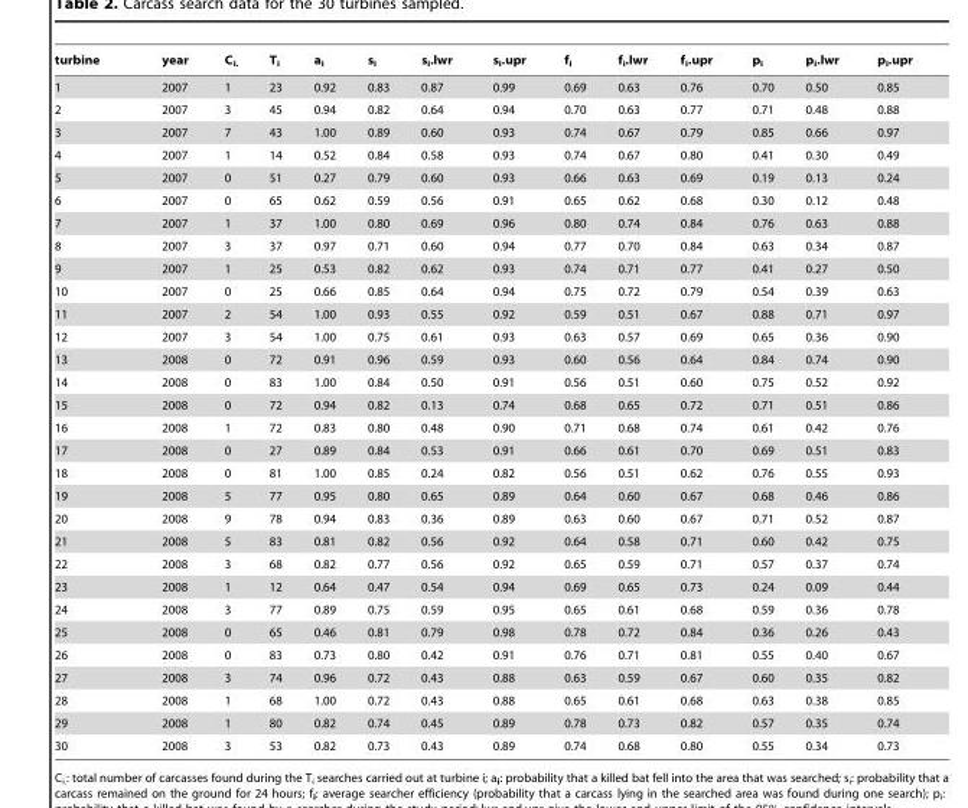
<table><thead><tr><td>turbine</td><td>year</td><td>C<sub>i.</sub></td><td>T<sub>i</sub></td><td>a<sub>i</sub></td><td>s<sub>i</sub></td><td>s<sub>i</sub>.lwr</td><td>s<sub>i</sub>.upr</td><td>f<sub>i</sub></td><td>f<sub>i</sub>.lwr</td><td>f<sub>i</sub>.upr</td><td>p<sub>i</sub></td><td>p<sub>i</sub>.lwr</td><td>p<sub>i</sub>.upr</td></tr></thead><tbody><tr><td>1</td><td>2007</td><td>1</td><td>23</td><td>0.92</td><td>0.83</td><td>0.87</td><td>0.99</td><td>0.69</td><td>0.63</td><td>0.76</td><td>0.70</td><td>0.50</td><td>0.85</td></tr><tr><td>2</td><td>2007</td><td>3</td><td>45</td><td>0.94</td><td>0.82</td><td>0.64</td><td>0.94</td><td>0.70</td><td>0.63</td><td>0.77</td><td>0.71</td><td>0.48</td><td>0.88</td></tr><tr><td>3</td><td>2007</td><td>7</td><td>43</td><td>1.00</td><td>0.89</td><td>0.60</td><td>0.93</td><td>0.74</td><td>0.67</td><td>0.79</td><td>0.85</td><td>0.66</td><td>0.97</td></tr><tr><td>4</td><td>2007</td><td>1</td><td>14</td><td>0.52</td><td>0.84</td><td>0.58</td><td>0.93</td><td>0.74</td><td>0.67</td><td>0.80</td><td>0.41</td><td>0.30</td><td>0.49</td></tr><tr><td>5</td><td>2007</td><td>0</td><td>51</td><td>0.27</td><td>0.79</td><td>0.60</td><td>0.93</td><td>0.66</td><td>0.63</td><td>0.69</td><td>0.19</td><td>0.13</td><td>0.24</td></tr><tr><td>6</td><td>2007</td><td>0</td><td>65</td><td>0.62</td><td>0.59</td><td>0.56</td><td>0.91</td><td>0.65</td><td>0.62</td><td>0.68</td><td>0.30</td><td>0.12</td><td>0.48</td></tr><tr><td>7</td><td>2007</td><td>1</td><td>37</td><td>1.00</td><td>0.80</td><td>0.69</td><td>0.96</td><td>0.80</td><td>0.74</td><td>0.84</td><td>0.76</td><td>0.63</td><td>0.88</td></tr><tr><td>8</td><td>2007</td><td>3</td><td>37</td><td>0.97</td><td>0.71</td><td>0.60</td><td>0.94</td><td>0.77</td><td>0.70</td><td>0.84</td><td>0.63</td><td>0.34</td><td>0.87</td></tr><tr><td>9</td><td>2007</td><td>1</td><td>25</td><td>0.53</td><td>0.82</td><td>0.62</td><td>0.93</td><td>0.74</td><td>0.71</td><td>0.77</td><td>0.41</td><td>0.27</td><td>0.50</td></tr><tr><td>10</td><td>2007</td><td>0</td><td>25</td><td>0.66</td><td>0.85</td><td>0.64</td><td>0.94</td><td>0.75</td><td>0.72</td><td>0.79</td><td>0.54</td><td>0.39</td><td>0.63</td></tr><tr><td>11</td><td>2007</td><td>2</td><td>54</td><td>1.00</td><td>0.93</td><td>0.55</td><td>0.92</td><td>0.59</td><td>0.51</td><td>0.67</td><td>0.88</td><td>0.71</td><td>0.97</td></tr><tr><td>12</td><td>2007</td><td>3</td><td>54</td><td>1.00</td><td>0.75</td><td>0.61</td><td>0.93</td><td>0.63</td><td>0.57</td><td>0.69</td><td>0.65</td><td>0.36</td><td>0.90</td></tr><tr><td>13</td><td>2008</td><td>0</td><td>72</td><td>0.91</td><td>0.96</td><td>0.59</td><td>0.93</td><td>0.60</td><td>0.56</td><td>0.64</td><td>0.84</td><td>0.74</td><td>0.90</td></tr><tr><td>14</td><td>2008</td><td>0</td><td>83</td><td>1.00</td><td>0.84</td><td>0.50</td><td>0.91</td><td>0.56</td><td>0.51</td><td>0.60</td><td>0.75</td><td>0.52</td><td>0.92</td></tr><tr><td>15</td><td>2008</td><td>0</td><td>72</td><td>0.94</td><td>0.82</td><td>0.13</td><td>0.74</td><td>0.68</td><td>0.65</td><td>0.72</td><td>0.71</td><td>0.51</td><td>0.86</td></tr><tr><td>16</td><td>2008</td><td>1</td><td>72</td><td>0.83</td><td>0.80</td><td>0.48</td><td>0.90</td><td>0.71</td><td>0.68</td><td>0.74</td><td>0.61</td><td>0.42</td><td>0.76</td></tr><tr><td>17</td><td>2008</td><td>0</td><td>27</td><td>0.89</td><td>0.84</td><td>0.53</td><td>0.91</td><td>0.66</td><td>0.61</td><td>0.70</td><td>0.69</td><td>0.51</td><td>0.83</td></tr><tr><td>18</td><td>2008</td><td>0</td><td>81</td><td>1.00</td><td>0.85</td><td>0.24</td><td>0.82</td><td>0.56</td><td>0.51</td><td>0.62</td><td>0.76</td><td>0.55</td><td>0.93</td></tr><tr><td>19</td><td>2008</td><td>5</td><td>77</td><td>0.95</td><td>0.80</td><td>0.65</td><td>0.89</td><td>0.64</td><td>0.60</td><td>0.67</td><td>0.68</td><td>0.46</td><td>0.86</td></tr><tr><td>20</td><td>2008</td><td>9</td><td>78</td><td>0.94</td><td>0.83</td><td>0.36</td><td>0.89</td><td>0.63</td><td>0.60</td><td>0.67</td><td>0.71</td><td>0.52</td><td>0.87</td></tr><tr><td>21</td><td>2008</td><td>5</td><td>83</td><td>0.81</td><td>0.82</td><td>0.56</td><td>0.92</td><td>0.64</td><td>0.58</td><td>0.71</td><td>0.60</td><td>0.42</td><td>0.75</td></tr><tr><td>22</td><td>2008</td><td>3</td><td>68</td><td>0.82</td><td>0.77</td><td>0.56</td><td>0.92</td><td>0.65</td><td>0.59</td><td>0.71</td><td>0.57</td><td>0.37</td><td>0.74</td></tr><tr><td>23</td><td>2008</td><td>1</td><td>12</td><td>0.64</td><td>0.47</td><td>0.54</td><td>0.94</td><td>0.69</td><td>0.65</td><td>0.73</td><td>0.24</td><td>0.09</td><td>0.44</td></tr><tr><td>24</td><td>2008</td><td>3</td><td>77</td><td>0.89</td><td>0.75</td><td>0.59</td><td>0.95</td><td>0.65</td><td>0.61</td><td>0.68</td><td>0.59</td><td>0.36</td><td>0.78</td></tr><tr><td>25</td><td>2008</td><td>0</td><td>65</td><td>0.46</td><td>0.81</td><td>0.79</td><td>0.98</td><td>0.78</td><td>0.72</td><td>0.84</td><td>0.36</td><td>0.26</td><td>0.43</td></tr><tr><td>26</td><td>2008</td><td>0</td><td>83</td><td>0.73</td><td>0.80</td><td>0.42</td><td>0.91</td><td>0.76</td><td>0.71</td><td>0.81</td><td>0.55</td><td>0.40</td><td>0.67</td></tr><tr><td>27</td><td>2008</td><td>3</td><td>74</td><td>0.96</td><td>0.72</td><td>0.43</td><td>0.88</td><td>0.63</td><td>0.59</td><td>0.67</td><td>0.60</td><td>0.35</td><td>0.82</td></tr><tr><td>28</td><td>2008</td><td>1</td><td>68</td><td>1.00</td><td>0.72</td><td>0.43</td><td>0.88</td><td>0.65</td><td>0.61</td><td>0.68</td><td>0.63</td><td>0.38</td><td>0.85</td></tr><tr><td>29</td><td>2008</td><td>1</td><td>80</td><td>0.82</td><td>0.74</td><td>0.45</td><td>0.89</td><td>0.78</td><td>0.73</td><td>0.82</td><td>0.57</td><td>0.35</td><td>0.74</td></tr><tr><td>30</td><td>2008</td><td>3</td><td>53</td><td>0.82</td><td>0.73</td><td>0.43</td><td>0.89</td><td>0.74</td><td>0.68</td><td>0.80</td><td>0.55</td><td>0.34</td><td>0.73</td></tr></tbody></table>